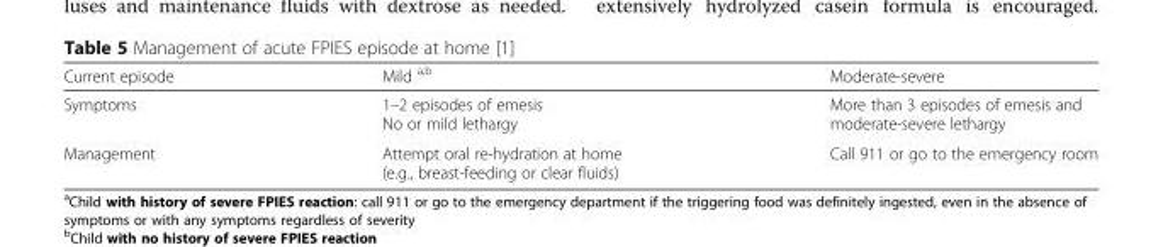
<table><thead><tr><td>Current episode</td><td>Mild <sup>a,b</sup></td><td>Moderate-severe</td></tr></thead><tbody><tr><td>Symptoms</td><td>1–2 episodes of emesis No or mild lethargy</td><td>More than 3 episodes of emesis and moderate-severe lethargy</td></tr><tr><td>Management</td><td>Attempt oral re-hydration at home (e.g., breast-feeding or clear fluids)</td><td>Call 911 or go to the emergency room</td></tr></tbody></table>